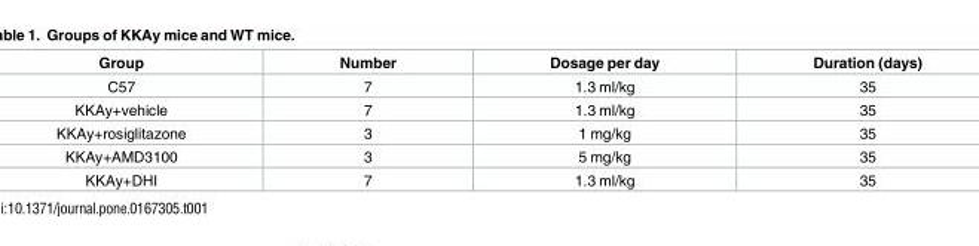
<table><thead><tr><td>Group</td><td>Number</td><td>Dosage per day</td><td>Duration (days)</td></tr></thead><tbody><tr><td>C57</td><td>7</td><td>1.3 ml/kg</td><td>35</td></tr><tr><td>KKAy+vehicle</td><td>7</td><td>1.3 ml/kg</td><td>35</td></tr><tr><td>KKAy+rosiglitazone</td><td>3</td><td>1 mg/kg</td><td>35</td></tr><tr><td>KKAy+AMD3100</td><td>3</td><td>5 mg/kg</td><td>35</td></tr><tr><td>KKAy+DHI</td><td>7</td><td>1.3 ml/kg</td><td>35</td></tr></tbody></table>